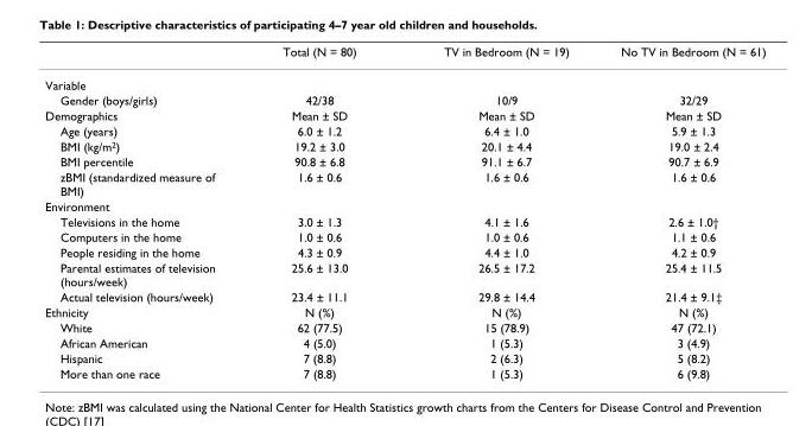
<table><thead><tr><td></td><td>Total (N = 80)</td><td>TV in Bedroom (N = 19)</td><td>No TV in Bedroom (N = 61)</td></tr></thead><tbody><tr><td colspan="4">Variable</td></tr><tr><td>Gender (boys/girls)</td><td>42/38</td><td>10/9</td><td>32/29</td></tr><tr><td>Demographics</td><td>Mean ± SD</td><td>Mean ± SD</td><td>Mean ± SD</td></tr><tr><td>Age (years)</td><td>6.0 ± 1.2</td><td>6.4 ± 1.0</td><td>5.9 ± 1.3</td></tr><tr><td>BMI (kg/m<sup>2</sup>)</td><td>19.2 ± 3.0</td><td>20.1 ± 4.4</td><td>19.0 ± 2.4</td></tr><tr><td>BMI percentile</td><td>90.8 ± 6.8</td><td>91.1 ± 6.7</td><td>90.7 ± 6.9</td></tr><tr><td>zBMI (standardized measure of BMI)</td><td>1.6 ± 0.6</td><td>1.6 ± 0.6</td><td>1.6 ± 0.6</td></tr><tr><td colspan="4">Environment</td></tr><tr><td>Televisions in the home</td><td>3.0 ± 1.3</td><td>4.1 ± 1.6</td><td>2.6 ± 1.0†</td></tr><tr><td>Computers in the home</td><td>1.0 ± 0.6</td><td>1.0 ± 0.6</td><td>1.1 ± 0.6</td></tr><tr><td>People residing in the home</td><td>4.3 ± 0.9</td><td>4.4 ± 1.0</td><td>4.2 ± 0.9</td></tr><tr><td>Parental estimates of television (hours/week)</td><td>25.6 ± 13.0</td><td>26.5 ± 17.2</td><td>25.4 ± 11.5</td></tr><tr><td>Actual television (hours/week)</td><td>23.4 ± 11.1</td><td>29.8 ± 14.4</td><td>21.4 ± 9.1‡</td></tr><tr><td>Ethnicity</td><td>N (%)</td><td>N (%)</td><td>N (%)</td></tr><tr><td>White</td><td>62 (77.5)</td><td>15 (78.9)</td><td>47 (72.1)</td></tr><tr><td>African American</td><td>4 (5.0)</td><td>1 (5.3)</td><td>3 (4.9)</td></tr><tr><td>Hispanic</td><td>7 (8.8)</td><td>2 (6.3)</td><td>5 (8.2)</td></tr><tr><td>More than one race</td><td>7 (8.8)</td><td>1 (5.3)</td><td>6 (9.8)</td></tr></tbody></table>